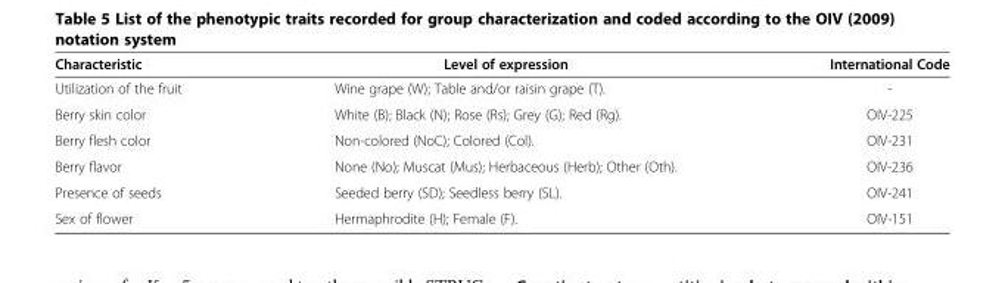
<table><thead><tr><td>Characteristic</td><td>Level of expression</td><td>International Code</td></tr></thead><tbody><tr><td>Utilization of the fruit</td><td>Wine grape (W); Table and/or raisin grape (T).</td><td>-</td></tr><tr><td>Berry skin color</td><td>White (B); Black (N); Rose (Rs); Grey (G); Red (Rg).</td><td>OIV-225</td></tr><tr><td>Berry flesh color</td><td>Non-colored (NoC); Colored (Col).</td><td>OIV-231</td></tr><tr><td>Berry flavor</td><td>None (No); Muscat (Mus); Herbaceous (Herb); Other (Oth).</td><td>OIV-236</td></tr><tr><td>Presence of seeds</td><td>Seeded berry (SD); Seedless berry (SL).</td><td>OIV-241</td></tr><tr><td>Sex of flower</td><td>Hermaphrodite (H); Female (F).</td><td>OIV-151</td></tr></tbody></table>